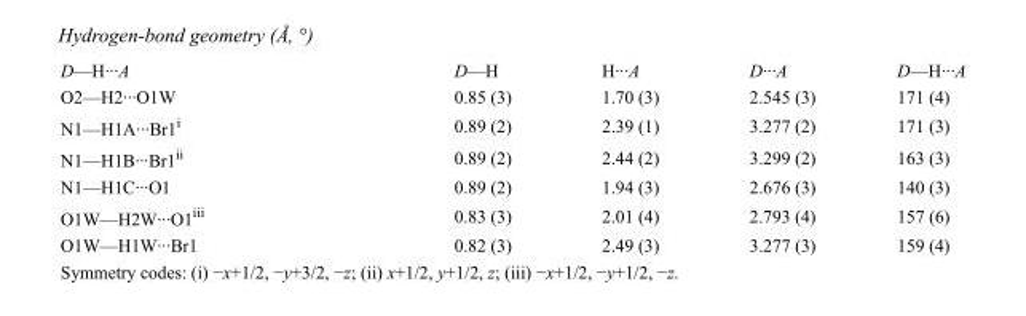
<table><tbody><tr><td>D—H···A</td><td>D—H</td><td>H···A</td><td>D···A</td><td>D—H···A</td></tr><tr><td>O2—H2···O1W</td><td>0.85 (3)</td><td>1.70 (3)</td><td>2.545 (3)</td><td>171 (4)</td></tr><tr><td>N1—H1A···Br1<sup>i</sup></td><td>0.89 (2)</td><td>2.39 (1)</td><td>3.277 (2)</td><td>171 (3)</td></tr><tr><td>N1—H1B···Br1<sup>ii</sup></td><td>0.89 (2)</td><td>2.44 (2)</td><td>3.299 (2)</td><td>163 (3)</td></tr><tr><td>N1—H1C···O1</td><td>0.89 (2)</td><td>1.94 (3)</td><td>2.676 (3)</td><td>140 (3)</td></tr><tr><td>O1W—H2W···O1<sup>iii</sup></td><td>0.83 (3)</td><td>2.01 (4)</td><td>2.793 (4)</td><td>157 (6)</td></tr><tr><td>O1W—H1W···Br1</td><td>0.82 (3)</td><td>2.49 (3)</td><td>3.277 (3)</td><td>159 (4)</td></tr></tbody></table>